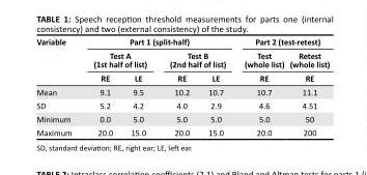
<table><thead><tr><td rowspan="3">Variable</td><td colspan="4">Part 1 (split-half)</td><td colspan="2">Part 2 (test-retest)</td></tr><tr><td colspan="2">Test A (1st half of list)</td><td colspan="2">Test B (2nd half of list)</td><td rowspan="2">Test (whole list) RE</td><td rowspan="2">Retest (whole list) RE</td></tr><tr><td>RE</td><td>LE</td><td>RE</td><td>LE</td></tr></thead><tbody><tr><td>Mean</td><td>9.1</td><td>9.5</td><td>10.2</td><td>10.7</td><td>10.7</td><td>11.1</td></tr><tr><td>SD</td><td>5.2</td><td>4.2</td><td>4.0</td><td>2.9</td><td>4.6</td><td>4.51</td></tr><tr><td>Minimum</td><td>0.0</td><td>5.0</td><td>5.0</td><td>5.0</td><td>5.0</td><td>50</td></tr><tr><td>Maximum</td><td>20.0</td><td>15.0</td><td>20.0</td><td>15.0</td><td>20.0</td><td>200</td></tr></tbody></table>